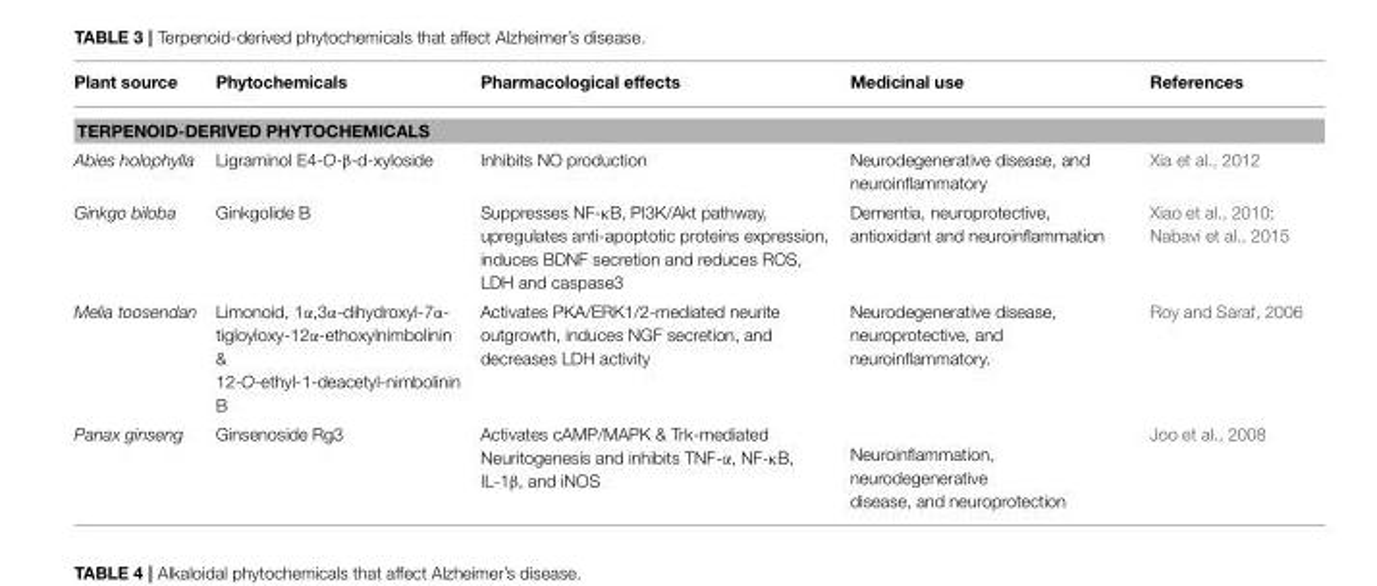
<table><thead><tr><td>Plant source</td><td>Phytochemicals</td><td>Pharmacological effects</td><td>Medicinal use</td><td>References</td></tr></thead><tbody><tr><td colspan="5">TERPENOID-DERIVED PHYTOCHEMICALS</td></tr><tr><td>Abies holophylla</td><td>Ligraminol E4-O-β-d-xyloside</td><td>Inhibits NO production</td><td>Neurodegenerative disease, and neuroinflammatory</td><td>Xia et al., 2012</td></tr><tr><td>Ginkgo biloba</td><td>Ginkgolide B</td><td>Suppresses NF-κB, PI3K/Akt pathway, upregulates anti-apoptotic proteins expression, induces BDNF secretion and reduces ROS, LDH and caspase3</td><td>Dementia, neuroprotective, antioxidant and neuroinflammation</td><td>Xiao et al., 2010; Nabavi et al., 2015</td></tr><tr><td>Melia toosendan</td><td>Limonoid, 1α,3α-dihydroxyl-7α- tigloyloxy-12α-ethoxylnimbolinin &amp; 12-O-ethyl-1-deacetyl-nimbolinin B</td><td>Activates PKA/ERK1/2-mediated neurite outgrowth, induces NGF secretion, and decreases LDH activity</td><td>Neurodegenerative disease, neuroprotective, and neuroinflammatory.</td><td>Roy and Saraf, 2006</td></tr><tr><td>Panax ginseng</td><td>Ginsenoside Rg3</td><td>Activates cAMP/MAPK &amp; Trk-mediated Neuritogenesis and inhibits TNF-α, NF-κB, IL-1β, and iNOS</td><td>Neuroinflammation, neurodegenerative disease, and neuroprotection</td><td>Joo et al., 2008</td></tr></tbody></table>